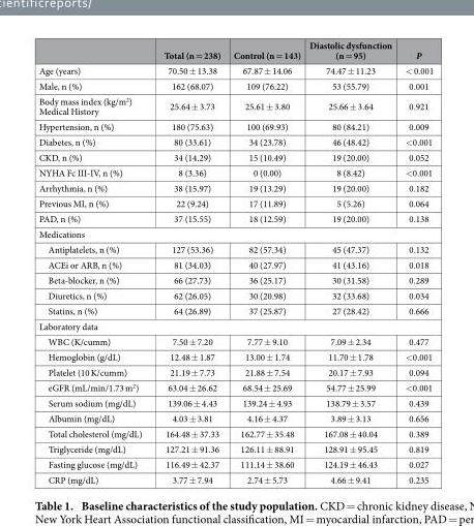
<table><thead><tr><td></td><td>Total (n = 238)</td><td>Control (n = 143)</td><td>Diastolic dysfunction (n = 95)</td><td>P</td></tr></thead><tbody><tr><td>Age (years)</td><td>70.50 ± 13.38</td><td>67.87 ± 14.06</td><td>74.47 ± 11.23</td><td>&lt; 0.001</td></tr><tr><td>Male, n (%)</td><td>162 (68.07)</td><td>109 (76.22)</td><td>53 (55.79)</td><td>0.001</td></tr><tr><td>Body mass index (kg/m<sup>2</sup>) Medical History</td><td>25.64 ± 3.73</td><td>25.61 ± 3.80</td><td>25.66 ± 3.64</td><td>0.921</td></tr><tr><td>Hypertension, n (%)</td><td>180 (75.63)</td><td>100 (69.93)</td><td>80 (84.21)</td><td>0.009</td></tr><tr><td>Diabetes, n (%)</td><td>80 (33.61)</td><td>34 (23.78)</td><td>46 (48.42)</td><td>&lt; 0.001</td></tr><tr><td>CKD, n (%)</td><td>34 (14.29)</td><td>15 (10.49)</td><td>19 (20.00)</td><td>0.052</td></tr><tr><td>NYHA Fc III-IV, n (%)</td><td>8 (3.36)</td><td>0 (0.00)</td><td>8 (8.42)</td><td>&lt; 0.001</td></tr><tr><td>Arrhythmia, n (%)</td><td>38 (15.97)</td><td>19 (13.29)</td><td>19 (20.00)</td><td>0.182</td></tr><tr><td>Previous MI, n (%)</td><td>22 (9.24)</td><td>17 (11.89)</td><td>5 (5.26)</td><td>0.064</td></tr><tr><td>PAD, n (%)</td><td>37 (15.55)</td><td>18 (12.59)</td><td>19 (20.00)</td><td>0.138</td></tr><tr><td colspan="5">Medications</td></tr><tr><td>Antiplatelets, n (%)</td><td>127 (53.36)</td><td>82 (57.34)</td><td>45 (47.37)</td><td>0.132</td></tr><tr><td>ACEi or ARB, n (%)</td><td>81 (34.03)</td><td>40 (27.97)</td><td>41 (43.16)</td><td>0.018</td></tr><tr><td>Beta-blocker, n (%)</td><td>66 (27.73)</td><td>36 (25.17)</td><td>30 (31.58)</td><td>0.289</td></tr><tr><td>Diuretics, n (%)</td><td>62 (26.05)</td><td>30 (20.98)</td><td>32 (33.68)</td><td>0.034</td></tr><tr><td>Statins, n (%)</td><td>64 (26.89)</td><td>37 (25.87)</td><td>27 (28.42)</td><td>0.666</td></tr><tr><td colspan="5">Laboratory data</td></tr><tr><td>WBC (K/cumm)</td><td>7.50 ± 7.20</td><td>7.77 ± 9.10</td><td>7.09 ± 2.34</td><td>0.477</td></tr><tr><td>Hemoglobin (g/dL)</td><td>12.48 ± 1.87</td><td>13.00 ± 1.74</td><td>11.70 ± 1.78</td><td>&lt; 0.001</td></tr><tr><td>Platelet (10 K/cumm)</td><td>21.19 ± 7.73</td><td>21.88 ± 7.54</td><td>20.17 ± 7.93</td><td>0.094</td></tr><tr><td>eGFR (mL/min/1.73 m<sup>2</sup>)</td><td>63.04 ± 26.62</td><td>68.54 ± 25.69</td><td>54.77 ± 25.99</td><td>&lt; 0.001</td></tr><tr><td>Serum sodium (mg/dL)</td><td>139.06 ± 4.43</td><td>139.24 ± 4.93</td><td>138.79 ± 3.57</td><td>0.439</td></tr><tr><td>Albumin (mg/dL)</td><td>4.03 ± 3.81</td><td>4.16 ± 4.37</td><td>3.89 ± 3.13</td><td>0.656</td></tr><tr><td>Total cholesterol (mg/dL)</td><td>164.48 ± 37.33</td><td>162.77 ± 35.48</td><td>167.08 ± 40.04</td><td>0.389</td></tr><tr><td>Triglyceride (mg/dL)</td><td>127.21 ± 91.36</td><td>126.11 ± 88.91</td><td>128.91 ± 95.45</td><td>0.819</td></tr><tr><td>Fasting glucose (mg/dL)</td><td>116.49 ± 42.37</td><td>111.14 ± 38.60</td><td>124.19 ± 46.43</td><td>0.027</td></tr><tr><td>CRP (mg/dL)</td><td>3.77 ± 7.94</td><td>2.74 ± 5.73</td><td>4.66 ± 9.41</td><td>0.235</td></tr></tbody></table>